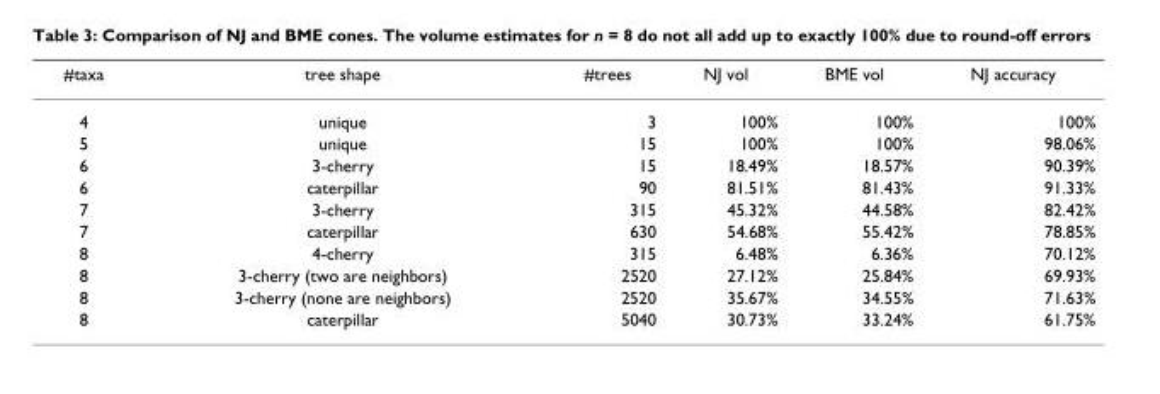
<table><thead><tr><td>#taxa</td><td>tree shape</td><td>#trees</td><td>NJ vol</td><td>BME vol</td><td>NJ accuracy</td></tr></thead><tbody><tr><td>4</td><td>unique</td><td>3</td><td>100%</td><td>100%</td><td>100%</td></tr><tr><td>5</td><td>unique</td><td>15</td><td>100%</td><td>100%</td><td>98.06%</td></tr><tr><td>6</td><td>3-cherry</td><td>15</td><td>18.49%</td><td>18.57%</td><td>90.39%</td></tr><tr><td>6</td><td>caterpillar</td><td>90</td><td>81.51%</td><td>81.43%</td><td>91.33%</td></tr><tr><td>7</td><td>3-cherry</td><td>315</td><td>45.32%</td><td>44.58%</td><td>82.42%</td></tr><tr><td>7</td><td>caterpillar</td><td>630</td><td>54.68%</td><td>55.42%</td><td>78.85%</td></tr><tr><td>8</td><td>4-cherry</td><td>315</td><td>6.48%</td><td>6.36%</td><td>70.12%</td></tr><tr><td>8</td><td>3-cherry (two are neighbors)</td><td>2520</td><td>27.12%</td><td>25.84%</td><td>69.93%</td></tr><tr><td>8</td><td>3-cherry (none are neighbors)</td><td>2520</td><td>35.67%</td><td>34.55%</td><td>71.63%</td></tr><tr><td>8</td><td>caterpillar</td><td>5040</td><td>30.73%</td><td>33.24%</td><td>61.75%</td></tr></tbody></table>